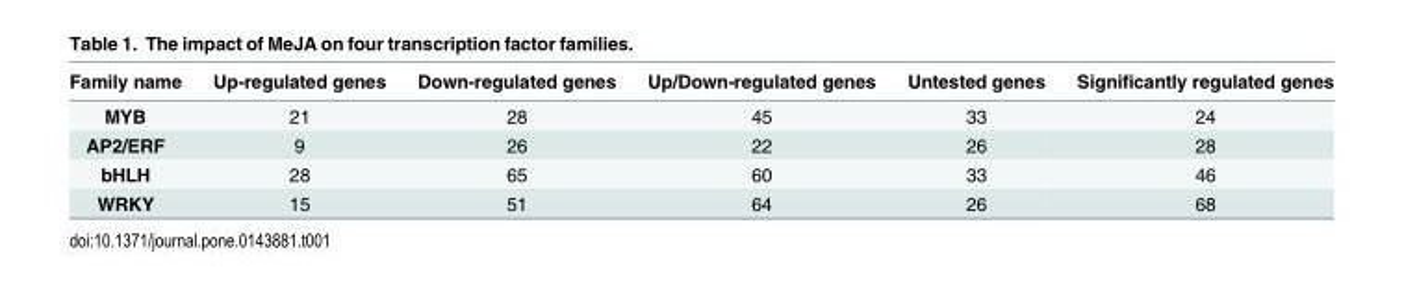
<table><thead><tr><td>Family name</td><td>Up-regulated genes</td><td>Down-regulated genes</td><td>Up/Down-regulated genes</td><td>Untested genes</td><td>Significantly regulated genes</td></tr></thead><tbody><tr><td>MYB</td><td>21</td><td>28</td><td>45</td><td>33</td><td>24</td></tr><tr><td>AP2/ERF</td><td>9</td><td>26</td><td>22</td><td>26</td><td>28</td></tr><tr><td>bHLH</td><td>28</td><td>65</td><td>60</td><td>33</td><td>46</td></tr><tr><td>WRKY</td><td>15</td><td>51</td><td>64</td><td>26</td><td>68</td></tr></tbody></table>